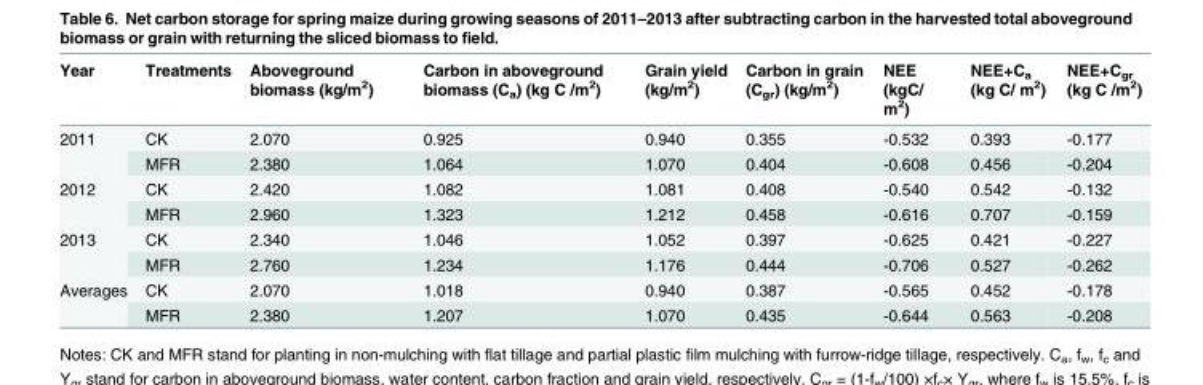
<table><thead><tr><td>Year</td><td>Treatments</td><td>Aboveground biomass (kg/m<sup>2</sup>)</td><td>Carbon in aboveground biomass (C<sub>a</sub>) (kg C /m<sup>2</sup>)</td><td>Grain yield (kg/m<sup>2</sup>)</td><td>Carbon in grain (C<sub>gr</sub>) (kg/m<sup>2</sup>)</td><td>NEE (kgC/ m<sup>2</sup>)</td><td>NEE+C<sub>a</sub> (kg C/ m<sup>2</sup>)</td><td>NEE+C<sub>gr</sub> (kg C /m<sup>2</sup>)</td></tr></thead><tbody><tr><td rowspan="2">2011</td><td>CK</td><td>2.070</td><td>0.925</td><td>0.940</td><td>0.355</td><td>-0.532</td><td>0.393</td><td>-0.177</td></tr><tr><td>MFR</td><td>2.380</td><td>1.064</td><td>1.070</td><td>0.404</td><td>-0.608</td><td>0.456</td><td>-0.204</td></tr><tr><td rowspan="2">2012</td><td>CK</td><td>2.420</td><td>1.082</td><td>1.081</td><td>0.408</td><td>-0.540</td><td>0.542</td><td>-0.132</td></tr><tr><td>MFR</td><td>2.960</td><td>1.323</td><td>1.212</td><td>0.458</td><td>-0.616</td><td>0.707</td><td>-0.159</td></tr><tr><td rowspan="2">2013</td><td>CK</td><td>2.340</td><td>1.046</td><td>1.052</td><td>0.397</td><td>-0.625</td><td>0.421</td><td>-0.227</td></tr><tr><td>MFR</td><td>2.760</td><td>1.234</td><td>1.176</td><td>0.444</td><td>-0.706</td><td>0.527</td><td>-0.262</td></tr><tr><td rowspan="2">Averages</td><td>CK</td><td>2.070</td><td>1.018</td><td>0.940</td><td>0.387</td><td>-0.565</td><td>0.452</td><td>-0.178</td></tr><tr><td>MFR</td><td>2.380</td><td>1.207</td><td>1.070</td><td>0.435</td><td>-0.644</td><td>0.563</td><td>-0.208</td></tr></tbody></table>